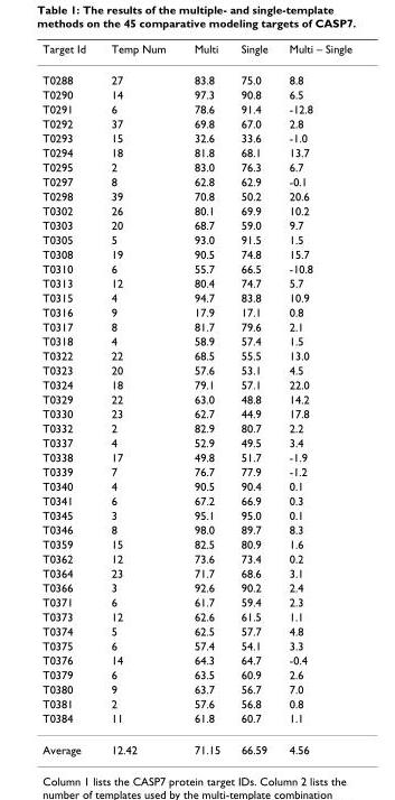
<table><thead><tr><td>Target Id</td><td>Temp Num</td><td>Multi</td><td>Single</td><td>Multi – Single</td></tr></thead><tbody><tr><td>T0288</td><td>27</td><td>83.8</td><td>75.0</td><td>8.8</td></tr><tr><td>T0290</td><td>14</td><td>97.3</td><td>90.8</td><td>6.5</td></tr><tr><td>T0291</td><td>6</td><td>78.6</td><td>91.4</td><td>-12.8</td></tr><tr><td>T0292</td><td>37</td><td>69.8</td><td>67.0</td><td>2.8</td></tr><tr><td>T0293</td><td>15</td><td>32.6</td><td>33.6</td><td>-1.0</td></tr><tr><td>T0294</td><td>18</td><td>81.8</td><td>68.1</td><td>13.7</td></tr><tr><td>T0295</td><td>2</td><td>83.0</td><td>76.3</td><td>6.7</td></tr><tr><td>T0297</td><td>8</td><td>62.8</td><td>62.9</td><td>-0.1</td></tr><tr><td>T0298</td><td>39</td><td>70.8</td><td>50.2</td><td>20.6</td></tr><tr><td>T0302</td><td>26</td><td>80.1</td><td>69.9</td><td>10.2</td></tr><tr><td>T0303</td><td>20</td><td>68.7</td><td>59.0</td><td>9.7</td></tr><tr><td>T0305</td><td>5</td><td>93.0</td><td>91.5</td><td>1.5</td></tr><tr><td>T0308</td><td>19</td><td>90.5</td><td>74.8</td><td>15.7</td></tr><tr><td>T0310</td><td>6</td><td>55.7</td><td>66.5</td><td>-10.8</td></tr><tr><td>T0313</td><td>12</td><td>80.4</td><td>74.7</td><td>5.7</td></tr><tr><td>T0315</td><td>4</td><td>94.7</td><td>83.8</td><td>10.9</td></tr><tr><td>T0316</td><td>9</td><td>17.9</td><td>17.1</td><td>0.8</td></tr><tr><td>T0317</td><td>8</td><td>81.7</td><td>79.6</td><td>2.1</td></tr><tr><td>T0318</td><td>4</td><td>58.9</td><td>57.4</td><td>1.5</td></tr><tr><td>T0322</td><td>22</td><td>68.5</td><td>55.5</td><td>13.0</td></tr><tr><td>T0323</td><td>20</td><td>57.6</td><td>53.1</td><td>4.5</td></tr><tr><td>T0324</td><td>18</td><td>79.1</td><td>57.1</td><td>22.0</td></tr><tr><td>T0329</td><td>22</td><td>63.0</td><td>48.8</td><td>14.2</td></tr><tr><td>T0330</td><td>23</td><td>62.7</td><td>44.9</td><td>17.8</td></tr><tr><td>T0332</td><td>2</td><td>82.9</td><td>80.7</td><td>2.2</td></tr><tr><td>T0337</td><td>4</td><td>52.9</td><td>49.5</td><td>3.4</td></tr><tr><td>T0338</td><td>17</td><td>49.8</td><td>51.7</td><td>-1.9</td></tr><tr><td>T0339</td><td>7</td><td>76.7</td><td>77.9</td><td>-1.2</td></tr><tr><td>T0340</td><td>4</td><td>90.5</td><td>90.4</td><td>0.1</td></tr><tr><td>T0341</td><td>6</td><td>67.2</td><td>66.9</td><td>0.3</td></tr><tr><td>T0345</td><td>3</td><td>95.1</td><td>95.0</td><td>0.1</td></tr><tr><td>T0346</td><td>8</td><td>98.0</td><td>89.7</td><td>8.3</td></tr><tr><td>T0359</td><td>15</td><td>82.5</td><td>80.9</td><td>1.6</td></tr><tr><td>T0362</td><td>12</td><td>73.6</td><td>73.4</td><td>0.2</td></tr><tr><td>T0364</td><td>23</td><td>71.7</td><td>68.6</td><td>3.1</td></tr><tr><td>T0366</td><td>3</td><td>92.6</td><td>90.2</td><td>2.4</td></tr><tr><td>T0371</td><td>6</td><td>61.7</td><td>59.4</td><td>2.3</td></tr><tr><td>T0373</td><td>12</td><td>62.6</td><td>61.5</td><td>1.1</td></tr><tr><td>T0374</td><td>5</td><td>62.5</td><td>57.7</td><td>4.8</td></tr><tr><td>T0375</td><td>6</td><td>57.4</td><td>54.1</td><td>3.3</td></tr><tr><td>T0376</td><td>14</td><td>64.3</td><td>64.7</td><td>-0.4</td></tr><tr><td>T0379</td><td>6</td><td>63.5</td><td>60.9</td><td>2.6</td></tr><tr><td>T0380</td><td>9</td><td>63.7</td><td>56.7</td><td>7.0</td></tr><tr><td>T0381</td><td>2</td><td>57.6</td><td>56.8</td><td>0.8</td></tr><tr><td>T0384</td><td>11</td><td>61.8</td><td>60.7</td><td>1.1</td></tr><tr><td>Average</td><td>12.42</td><td>71.15</td><td>66.59</td><td>4.56</td></tr></tbody></table>